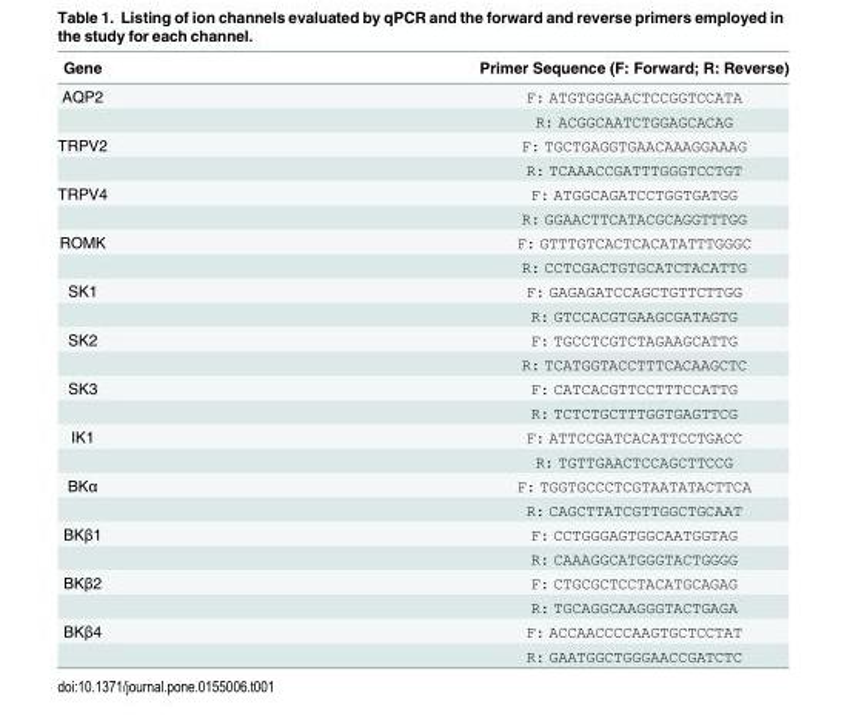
<table><thead><tr><td>Gene</td><td>Primer Sequence (F: Forward; R: Reverse)</td></tr></thead><tbody><tr><td rowspan="2">AQP2</td><td>F: ATGTGGGAACTCCGGTCCATA</td></tr><tr><td>R: ACGGCAATCTGGAGCACAG</td></tr><tr><td rowspan="2">TRPV2</td><td>F: TGCTGAGGTGAACAAAGGAAAG</td></tr><tr><td>R: TCAAACCGATTTGGGTCCTGT</td></tr><tr><td rowspan="2">TRPV4</td><td>F: ATGGCAGATCCTGGTGATGG</td></tr><tr><td>R: GGAACTTCATACGCAGGTTTGG</td></tr><tr><td rowspan="2">ROMK</td><td>F: GTTTGTCACTCACATATTTGGGC</td></tr><tr><td>R: CCTCGACTGTGCATCTACATTG</td></tr><tr><td rowspan="2">SK1</td><td>F: GAGAGATCCAGCTGTTCTTGG</td></tr><tr><td>R: GTCCACGTGAAGCGATAGTG</td></tr><tr><td rowspan="2">SK2</td><td>F: TGCCTCGTCTAGAAGCATTG</td></tr><tr><td>R: TCATGGTACCTTTCACAAGCTC</td></tr><tr><td rowspan="2">SK3</td><td>F: CATCACGTTCCTTTCCATTG</td></tr><tr><td>R: TCTCTGCTTTGGTGAGTTCG</td></tr><tr><td rowspan="2">IK1</td><td>F: ATTCCGATCACATTCCTGACC</td></tr><tr><td>R: TGTTGAACTCCAGCTTCCG</td></tr><tr><td rowspan="2">BKα</td><td>F: TGGTGCCCTCGTAATATACTTCA</td></tr><tr><td>R: CAGCTTATCGTTGGCTGCAAT</td></tr><tr><td rowspan="2">BKβ1</td><td>F: CCTGGGAGTGGCAATGGTAG</td></tr><tr><td>R: CAAAGGCATGGGTACTGGGG</td></tr><tr><td rowspan="2">BKβ2</td><td>F: CTGCGCTCCTACATGCAGAG</td></tr><tr><td>R: TGCAGGCAAGGGTACTGAGA</td></tr><tr><td rowspan="2">BKβ4</td><td>F: ACCAACCCCAAGTGCTCCTAT</td></tr><tr><td>R: GAATGGCTGGGAACCGATCTC</td></tr></tbody></table>